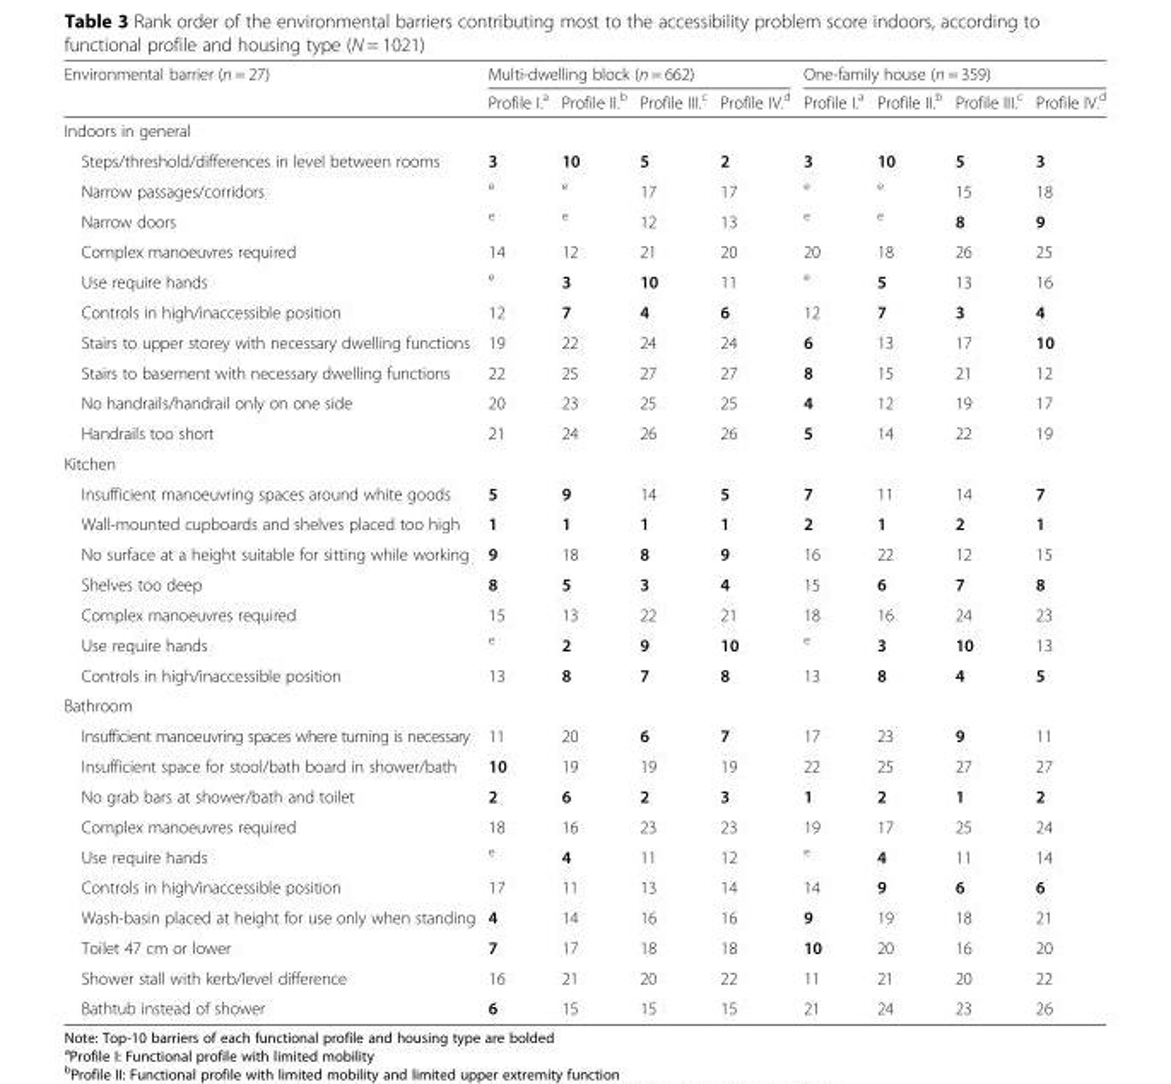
<table><thead><tr><td rowspan="2">Environmental barrier (n = 27)</td><td colspan="4">Multi-dwelling block (n = 662)</td><td colspan="4">One-family house (n = 359)</td></tr><tr><td>Profile I.<sup>a</sup></td><td>Profile II.<sup>b</sup></td><td>Profile III.<sup>c</sup></td><td>Profile IV.<sup>d</sup></td><td>Profile I.<sup>a</sup></td><td>Profile II.<sup>b</sup></td><td>Profile III.<sup>c</sup></td><td>Profile IV.<sup>d</sup></td></tr></thead><tbody><tr><td colspan="9">Indoors in general</td></tr><tr><td>Steps/threshold/differences in level between rooms</td><td>3</td><td>10</td><td>5</td><td>2</td><td>3</td><td>10</td><td>5</td><td>3</td></tr><tr><td>Narrow passages/corridors</td><td><sup>e</sup></td><td><sup>e</sup></td><td>17</td><td>17</td><td><sup>e</sup></td><td><sup>e</sup></td><td>15</td><td>18</td></tr><tr><td>Narrow doors</td><td><sup>e</sup></td><td><sup>e</sup></td><td>12</td><td>13</td><td><sup>e</sup></td><td><sup>e</sup></td><td>8</td><td>9</td></tr><tr><td>Complex manoeuvres required</td><td>14</td><td>12</td><td>21</td><td>20</td><td>20</td><td>18</td><td>26</td><td>25</td></tr><tr><td>Use require hands</td><td><sup>e</sup></td><td>3</td><td>10</td><td>11</td><td><sup>e</sup></td><td>5</td><td>13</td><td>16</td></tr><tr><td>Controls in high/inaccessible position</td><td>12</td><td>7</td><td>4</td><td>6</td><td>12</td><td>7</td><td>3</td><td>4</td></tr><tr><td>Stairs to upper storey with necessary dwelling functions</td><td>19</td><td>22</td><td>24</td><td>24</td><td>6</td><td>13</td><td>17</td><td>10</td></tr><tr><td>Stairs to basement with necessary dwelling functions</td><td>22</td><td>25</td><td>27</td><td>27</td><td>8</td><td>15</td><td>21</td><td>12</td></tr><tr><td>No handrails/handrail only on one side</td><td>20</td><td>23</td><td>25</td><td>25</td><td>4</td><td>12</td><td>19</td><td>17</td></tr><tr><td>Handrails too short</td><td>21</td><td>24</td><td>26</td><td>26</td><td>5</td><td>14</td><td>22</td><td>19</td></tr><tr><td colspan="9">Kitchen</td></tr><tr><td>Insufficient manoeuvring spaces around white goods</td><td>5</td><td>9</td><td>14</td><td>5</td><td>7</td><td>11</td><td>14</td><td>7</td></tr><tr><td>Wall-mounted cupboards and shelves placed too high</td><td>1</td><td>1</td><td>1</td><td>1</td><td>2</td><td>1</td><td>2</td><td>1</td></tr><tr><td>No surface at a height suitable for sitting while working</td><td>9</td><td>18</td><td>8</td><td>9</td><td>16</td><td>22</td><td>12</td><td>15</td></tr><tr><td>Shelves too deep</td><td>8</td><td>5</td><td>3</td><td>4</td><td>15</td><td>6</td><td>7</td><td>8</td></tr><tr><td>Complex manoeuvres required</td><td>15</td><td>13</td><td>22</td><td>21</td><td>18</td><td>16</td><td>24</td><td>23</td></tr><tr><td>Use require hands</td><td><sup>e</sup></td><td>2</td><td>9</td><td>10</td><td><sup>e</sup></td><td>3</td><td>10</td><td>13</td></tr><tr><td>Controls in high/inaccessible position</td><td>13</td><td>8</td><td>7</td><td>8</td><td>13</td><td>8</td><td>4</td><td>5</td></tr><tr><td colspan="9">Bathroom</td></tr><tr><td>Insufficient manoeuvring spaces where turning is necessary</td><td>11</td><td>20</td><td>6</td><td>7</td><td>17</td><td>23</td><td>9</td><td>11</td></tr><tr><td>Insufficient space for stool/bath board in shower/bath</td><td>10</td><td>19</td><td>19</td><td>19</td><td>22</td><td>25</td><td>27</td><td>27</td></tr><tr><td>No grab bars at shower/bath and toilet</td><td>2</td><td>6</td><td>2</td><td>3</td><td>1</td><td>2</td><td>1</td><td>2</td></tr><tr><td>Complex manoeuvres required</td><td>18</td><td>16</td><td>23</td><td>23</td><td>19</td><td>17</td><td>25</td><td>24</td></tr><tr><td>Use require hands</td><td><sup>e</sup></td><td>4</td><td>11</td><td>12</td><td><sup>e</sup></td><td>4</td><td>11</td><td>14</td></tr><tr><td>Controls in high/inaccessible position</td><td>17</td><td>11</td><td>13</td><td>14</td><td>14</td><td>9</td><td>6</td><td>6</td></tr><tr><td>Wash-basin placed at height for use only when standing</td><td>4</td><td>14</td><td>16</td><td>16</td><td>9</td><td>19</td><td>18</td><td>21</td></tr><tr><td>Toilet 47 cm or lower</td><td>7</td><td>17</td><td>18</td><td>18</td><td>10</td><td>20</td><td>16</td><td>20</td></tr><tr><td>Shower stall with kerb/level difference</td><td>16</td><td>21</td><td>20</td><td>22</td><td>11</td><td>21</td><td>20</td><td>22</td></tr><tr><td>Bathtub instead of shower</td><td>6</td><td>15</td><td>15</td><td>15</td><td>21</td><td>24</td><td>23</td><td>26</td></tr></tbody></table>